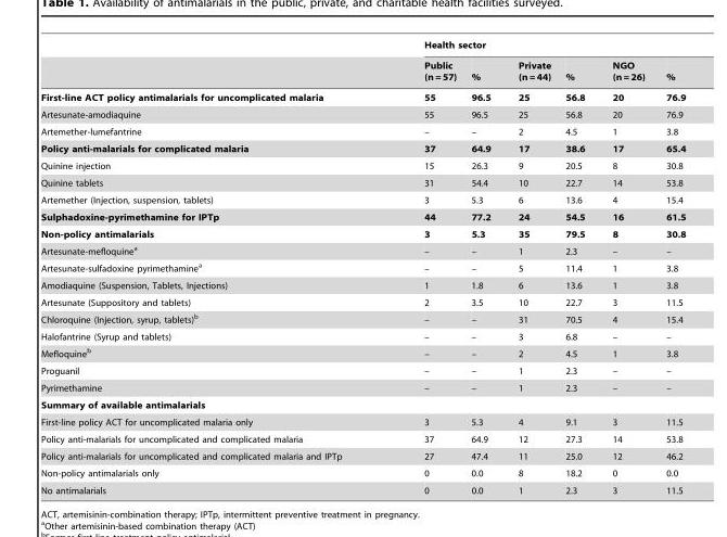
<table><thead><tr><td rowspan="2"></td><td colspan="6">Health sector</td></tr><tr><td>Public (n = 57)</td><td>%</td><td>Private (n = 44)</td><td>%</td><td>NGO (n = 26)</td><td>%</td></tr></thead><tbody><tr><td>First-line ACT policy antimalarials for uncomplicated malaria</td><td>55</td><td>96.5</td><td>25</td><td>56.8</td><td>20</td><td>76.9</td></tr><tr><td>Artesunate-amodiaquine</td><td>55</td><td>96.5</td><td>25</td><td>56.8</td><td>20</td><td>76.9</td></tr><tr><td>Artemether-lumefantrine</td><td>–</td><td>–</td><td>2</td><td>4.5</td><td>1</td><td>3.8</td></tr><tr><td>Policy anti-malarials for complicated malaria</td><td>37</td><td>64.9</td><td>17</td><td>38.6</td><td>17</td><td>65.4</td></tr><tr><td>Quinine injection</td><td>15</td><td>26.3</td><td>9</td><td>20.5</td><td>8</td><td>30.8</td></tr><tr><td>Quinine tablets</td><td>31</td><td>54.4</td><td>10</td><td>22.7</td><td>14</td><td>53.8</td></tr><tr><td>Artemether (Injection, suspension, tablets)</td><td>3</td><td>5.3</td><td>6</td><td>13.6</td><td>4</td><td>15.4</td></tr><tr><td>Sulphadoxine-pyrimethamine for IPTp</td><td>44</td><td>77.2</td><td>24</td><td>54.5</td><td>16</td><td>61.5</td></tr><tr><td>Non-policy antimalarials</td><td>3</td><td>5.3</td><td>35</td><td>79.5</td><td>8</td><td>30.8</td></tr><tr><td>Artesunate-mefloquine<sup>a</sup></td><td>–</td><td>–</td><td>1</td><td>2.3</td><td>–</td><td>–</td></tr><tr><td>Artesunate-sulfadoxine pyrimethamine<sup>a</sup></td><td>–</td><td>–</td><td>5</td><td>11.4</td><td>1</td><td>3.8</td></tr><tr><td>Amodiaquine (Suspension, Tablets, Injections)</td><td>1</td><td>1.8</td><td>6</td><td>13.6</td><td>1</td><td>3.8</td></tr><tr><td>Artesunate (Suppository and tablets)</td><td>2</td><td>3.5</td><td>10</td><td>22.7</td><td>3</td><td>11.5</td></tr><tr><td>Chloroquine (Injection, syrup, tablets)<sup>b</sup></td><td>–</td><td>–</td><td>31</td><td>70.5</td><td>4</td><td>15.4</td></tr><tr><td>Halofantrine (Syrup and tablets)</td><td>–</td><td>–</td><td>3</td><td>6.8</td><td>–</td><td>–</td></tr><tr><td>Mefloquine<sup>b</sup></td><td>–</td><td>–</td><td>2</td><td>4.5</td><td>1</td><td>3.8</td></tr><tr><td>Proguanil</td><td>–</td><td>–</td><td>1</td><td>2.3</td><td>–</td><td>–</td></tr><tr><td>Pyrimethamine</td><td>–</td><td>–</td><td>1</td><td>2.3</td><td>–</td><td>–</td></tr><tr><td colspan="7">Summary of available antimalarials</td></tr><tr><td>First-line policy ACT for uncomplicated malaria only</td><td>3</td><td>5.3</td><td>4</td><td>9.1</td><td>3</td><td>11.5</td></tr><tr><td>Policy anti-malarials for uncomplicated and complicated malaria</td><td>37</td><td>64.9</td><td>12</td><td>27.3</td><td>14</td><td>53.8</td></tr><tr><td>Policy anti-malarials for uncomplicated and complicated malaria and IPTp</td><td>27</td><td>47.4</td><td>11</td><td>25.0</td><td>12</td><td>46.2</td></tr><tr><td>Non-policy antimalarials only</td><td>0</td><td>0.0</td><td>8</td><td>18.2</td><td>0</td><td>0.0</td></tr><tr><td>No antimalarials</td><td>0</td><td>0.0</td><td>1</td><td>2.3</td><td>3</td><td>11.5</td></tr></tbody></table>